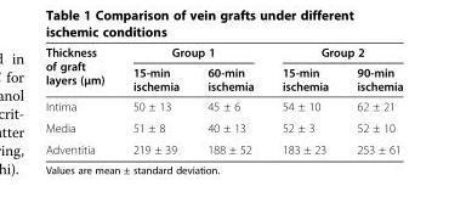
<table><thead><tr><td rowspan="2">Thickness of graft layers (μm)</td><td colspan="2">Group 1</td><td colspan="2">Group 2</td></tr><tr><td>15-min ischemia</td><td>60-min ischemia</td><td>15-min ischemia</td><td>90-min ischemia</td></tr></thead><tbody><tr><td>Intima</td><td>50 ± 13</td><td>45 ± 6</td><td>54 ± 10</td><td>62 ± 21</td></tr><tr><td>Media</td><td>51 ± 8</td><td>40 ± 13</td><td>52 ± 3</td><td>52 ± 10</td></tr><tr><td>Adventitia</td><td>219 ± 39</td><td>188 ± 52</td><td>183 ± 23</td><td>253 ± 61</td></tr></tbody></table>